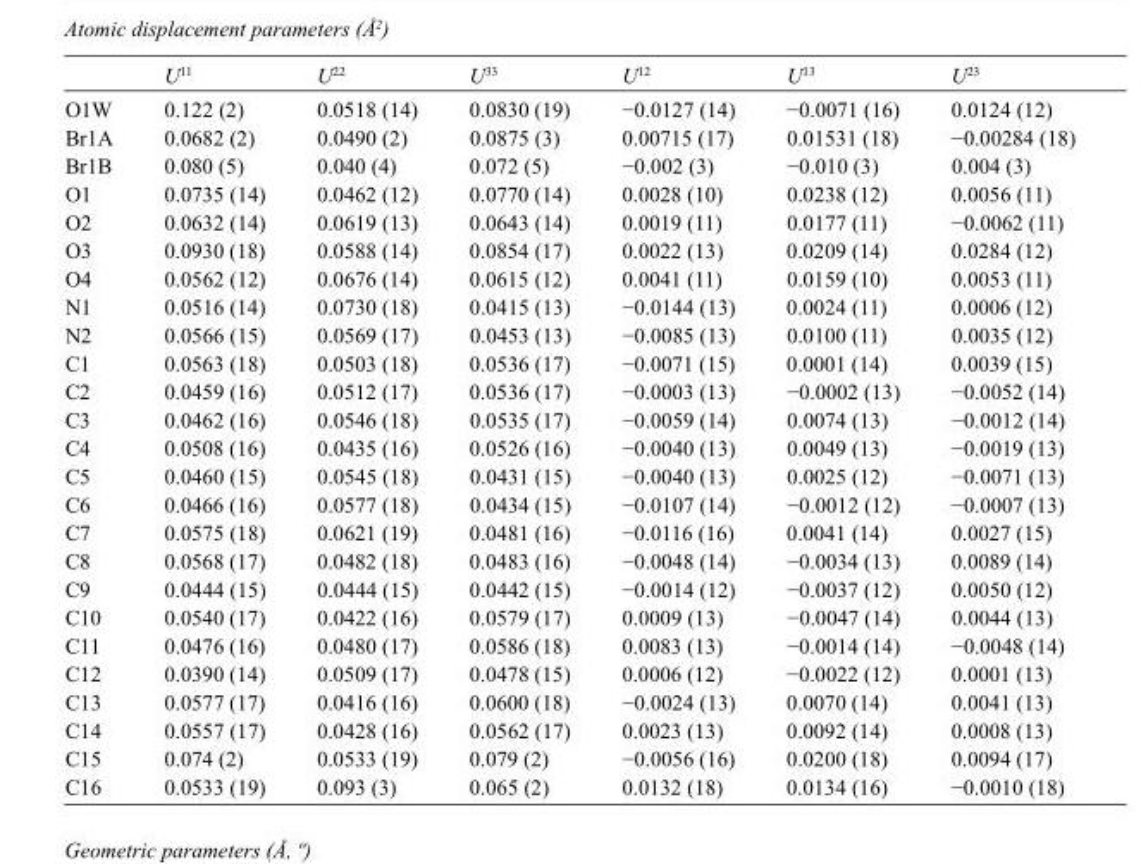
<table><thead><tr><td></td><td>U<sup>11</sup></td><td>U<sup>22</sup></td><td>U<sup>33</sup></td><td>U<sup>12</sup></td><td>U<sup>13</sup></td><td>U<sup>23</sup></td></tr></thead><tbody><tr><td>O1W</td><td>0.122 (2)</td><td>0.0518 (14)</td><td>0.0830 (19)</td><td>−0.0127 (14)</td><td>−0.0071 (16)</td><td>0.0124 (12)</td></tr><tr><td>Br1A</td><td>0.0682 (2)</td><td>0.0490 (2)</td><td>0.0875 (3)</td><td>0.00715 (17)</td><td>0.01531 (18)</td><td>−0.00284 (18)</td></tr><tr><td>Br1B</td><td>0.080 (5)</td><td>0.040 (4)</td><td>0.072 (5)</td><td>−0.002 (3)</td><td>−0.010 (3)</td><td>0.004 (3)</td></tr><tr><td>O1</td><td>0.0735 (14)</td><td>0.0462 (12)</td><td>0.0770 (14)</td><td>0.0028 (10)</td><td>0.0238 (12)</td><td>0.0056 (11)</td></tr><tr><td>O2</td><td>0.0632 (14)</td><td>0.0619 (13)</td><td>0.0643 (14)</td><td>0.0019 (11)</td><td>0.0177 (11)</td><td>−0.0062 (11)</td></tr><tr><td>O3</td><td>0.0930 (18)</td><td>0.0588 (14)</td><td>0.0854 (17)</td><td>0.0022 (13)</td><td>0.0209 (14)</td><td>0.0284 (12)</td></tr><tr><td>O4</td><td>0.0562 (12)</td><td>0.0676 (14)</td><td>0.0615 (12)</td><td>0.0041 (11)</td><td>0.0159 (10)</td><td>0.0053 (11)</td></tr><tr><td>N1</td><td>0.0516 (14)</td><td>0.0730 (18)</td><td>0.0415 (13)</td><td>−0.0144 (13)</td><td>0.0024 (11)</td><td>0.0006 (12)</td></tr><tr><td>N2</td><td>0.0566 (15)</td><td>0.0569 (17)</td><td>0.0453 (13)</td><td>−0.0085 (13)</td><td>0.0100 (11)</td><td>0.0035 (12)</td></tr><tr><td>C1</td><td>0.0563 (18)</td><td>0.0503 (18)</td><td>0.0536 (17)</td><td>−0.0071 (15)</td><td>0.0001 (14)</td><td>0.0039 (15)</td></tr><tr><td>C2</td><td>0.0459 (16)</td><td>0.0512 (17)</td><td>0.0536 (17)</td><td>−0.0003 (13)</td><td>−0.0002 (13)</td><td>−0.0052 (14)</td></tr><tr><td>C3</td><td>0.0462 (16)</td><td>0.0546 (18)</td><td>0.0535 (17)</td><td>−0.0059 (14)</td><td>0.0074 (13)</td><td>−0.0012 (14)</td></tr><tr><td>C4</td><td>0.0508 (16)</td><td>0.0435 (16)</td><td>0.0526 (16)</td><td>−0.0040 (13)</td><td>0.0049 (13)</td><td>−0.0019 (13)</td></tr><tr><td>C5</td><td>0.0460 (15)</td><td>0.0545 (18)</td><td>0.0431 (15)</td><td>−0.0040 (13)</td><td>0.0025 (12)</td><td>−0.0071 (13)</td></tr><tr><td>C6</td><td>0.0466 (16)</td><td>0.0577 (18)</td><td>0.0434 (15)</td><td>−0.0107 (14)</td><td>−0.0012 (12)</td><td>−0.0007 (13)</td></tr><tr><td>C7</td><td>0.0575 (18)</td><td>0.0621 (19)</td><td>0.0481 (16)</td><td>−0.0116 (16)</td><td>0.0041 (14)</td><td>0.0027 (15)</td></tr><tr><td>C8</td><td>0.0568 (17)</td><td>0.0482 (18)</td><td>0.0483 (16)</td><td>−0.0048 (14)</td><td>−0.0034 (13)</td><td>0.0089 (14)</td></tr><tr><td>C9</td><td>0.0444 (15)</td><td>0.0444 (15)</td><td>0.0442 (15)</td><td>−0.0014 (12)</td><td>−0.0037 (12)</td><td>0.0050 (12)</td></tr><tr><td>C10</td><td>0.0540 (17)</td><td>0.0422 (16)</td><td>0.0579 (17)</td><td>0.0009 (13)</td><td>−0.0047 (14)</td><td>0.0044 (13)</td></tr><tr><td>C11</td><td>0.0476 (16)</td><td>0.0480 (17)</td><td>0.0586 (18)</td><td>0.0083 (13)</td><td>−0.0014 (14)</td><td>−0.0048 (14)</td></tr><tr><td>C12</td><td>0.0390 (14)</td><td>0.0509 (17)</td><td>0.0478 (15)</td><td>0.0006 (12)</td><td>−0.0022 (12)</td><td>0.0001 (13)</td></tr><tr><td>C13</td><td>0.0577 (17)</td><td>0.0416 (16)</td><td>0.0600 (18)</td><td>−0.0024 (13)</td><td>0.0070 (14)</td><td>0.0041 (13)</td></tr><tr><td>C14</td><td>0.0557 (17)</td><td>0.0428 (16)</td><td>0.0562 (17)</td><td>0.0023 (13)</td><td>0.0092 (14)</td><td>0.0008 (13)</td></tr><tr><td>C15</td><td>0.074 (2)</td><td>0.0533 (19)</td><td>0.079 (2)</td><td>−0.0056 (16)</td><td>0.0200 (18)</td><td>0.0094 (17)</td></tr><tr><td>C16</td><td>0.0533 (19)</td><td>0.093 (3)</td><td>0.065 (2)</td><td>0.0132 (18)</td><td>0.0134 (16)</td><td>−0.0010 (18)</td></tr></tbody></table>